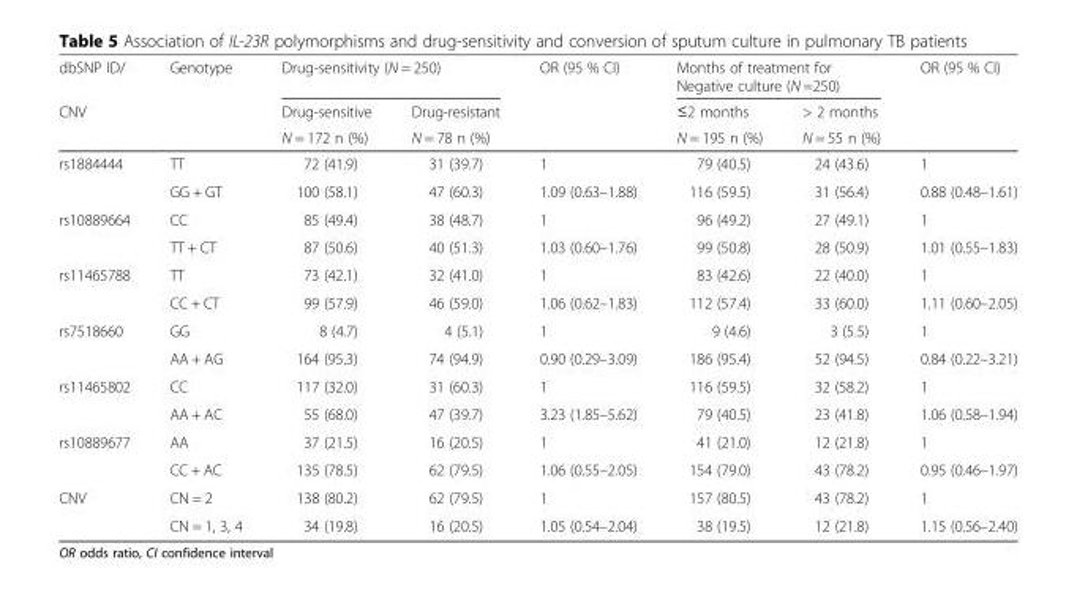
<table><thead><tr><td rowspan="3">dbSNP ID/ CNV</td><td rowspan="3">Genotype</td><td colspan="2">Drug-sensitivity (N = 250)</td><td rowspan="3">OR (95 % CI)</td><td colspan="2">Months of treatment for Negative culture (N =250)</td><td rowspan="3">OR (95 % CI)</td></tr><tr><td rowspan="2">Drug-sensitive N = 172 n (%)</td><td rowspan="2">Drug-resistant N = 78 n (%)</td><td rowspan="2">≤2 months N = 195 n (%)</td><td rowspan="2">&gt; 2 months N = 55 n (%)</td></tr><tr></tr></thead><tbody><tr><td rowspan="2">rs1884444</td><td>TT</td><td>72 (41.9)</td><td>31 (39.7)</td><td>1</td><td>79 (40.5)</td><td>24 (43.6)</td><td>1</td></tr><tr><td>GG + GT</td><td>100 (58.1)</td><td>47 (60.3)</td><td>1.09 (0.63–1.88)</td><td>116 (59.5)</td><td>31 (56.4)</td><td>0.88 (0.48–1.61)</td></tr><tr><td rowspan="2">rs10889664</td><td>CC</td><td>85 (49.4)</td><td>38 (48.7)</td><td>1</td><td>96 (49.2)</td><td>27 (49.1)</td><td>1</td></tr><tr><td>TT + CT</td><td>87 (50.6)</td><td>40 (51.3)</td><td>1.03 (0.60–1.76)</td><td>99 (50.8)</td><td>28 (50.9)</td><td>1.01 (0.55–1.83)</td></tr><tr><td rowspan="2">rs11465788</td><td>TT</td><td>73 (42.1)</td><td>32 (41.0)</td><td>1</td><td>83 (42.6)</td><td>22 (40.0)</td><td>1</td></tr><tr><td>CC + CT</td><td>99 (57.9)</td><td>46 (59.0)</td><td>1.06 (0.62–1.83)</td><td>112 (57.4)</td><td>33 (60.0)</td><td>1.11 (0.60–2.05)</td></tr><tr><td rowspan="2">rs7518660</td><td>GG</td><td>8 (4.7)</td><td>4 (5.1)</td><td>1</td><td>9 (4.6)</td><td>3 (5.5)</td><td>1</td></tr><tr><td>AA + AG</td><td>164 (95.3)</td><td>74 (94.9)</td><td>0.90 (0.29–3.09)</td><td>186 (95.4)</td><td>52 (94.5)</td><td>0.84 (0.22–3.21)</td></tr><tr><td rowspan="2">rs11465802</td><td>CC</td><td>117 (32.0)</td><td>31 (60.3)</td><td>1</td><td>116 (59.5)</td><td>32 (58.2)</td><td>1</td></tr><tr><td>AA + AC</td><td>55 (68.0)</td><td>47 (39.7)</td><td>3.23 (1.85–5.62)</td><td>79 (40.5)</td><td>23 (41.8)</td><td>1.06 (0.58–1.94)</td></tr><tr><td rowspan="2">rs10889677</td><td>AA</td><td>37 (21.5)</td><td>16 (20.5)</td><td>1</td><td>41 (21.0)</td><td>12 (21.8)</td><td>1</td></tr><tr><td>CC + AC</td><td>135 (78.5)</td><td>62 (79.5)</td><td>1.06 (0.55–2.05)</td><td>154 (79.0)</td><td>43 (78.2)</td><td>0.95 (0.46–1.97)</td></tr><tr><td rowspan="2">CNV</td><td>CN = 2</td><td>138 (80.2)</td><td>62 (79.5)</td><td>1</td><td>157 (80.5)</td><td>43 (78.2)</td><td>1</td></tr><tr><td>CN = 1, 3, 4</td><td>34 (19.8)</td><td>16 (20.5)</td><td>1.05 (0.54–2.04)</td><td>38 (19.5)</td><td>12 (21.8)</td><td>1.15 (0.56–2.40)</td></tr></tbody></table>